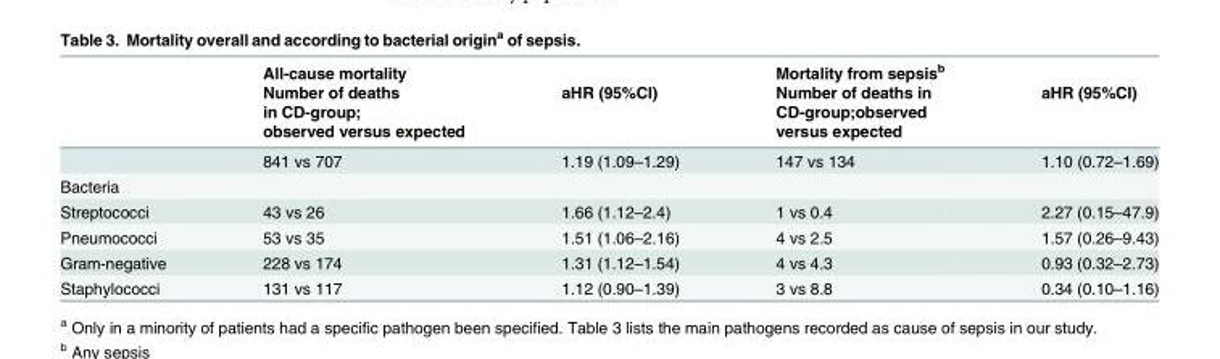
<table><thead><tr><td rowspan="2"></td><td rowspan="2">All-cause mortality Number of deaths in CD-group; observed versus expected</td><td rowspan="2">aHR (95%CI)</td><td rowspan="2">Mortality from sepsis<sup>b</sup> Number of deaths in CD-group;observed versus expected</td><td rowspan="2">aHR (95%CI)</td></tr><tr></tr></thead><tbody><tr><td></td><td>841 vs 707</td><td>1.19 (1.09–1.29)</td><td>147 vs 134</td><td>1.10 (0.72–1.69)</td></tr><tr><td colspan="5">Bacteria</td></tr><tr><td>Streptococci</td><td>43 vs 26</td><td>1.66 (1.12–2.4)</td><td>1 vs 0.4</td><td>2.27 (0.15–47.9)</td></tr><tr><td>Pneumococci</td><td>53 vs 35</td><td>1.51 (1.06–2.16)</td><td>4 vs 2.5</td><td>1.57 (0.26–9.43)</td></tr><tr><td>Gram-negative</td><td>228 vs 174</td><td>1.31 (1.12–1.54)</td><td>4 vs 4.3</td><td>0.93 (0.32–2.73)</td></tr><tr><td>Staphylococci</td><td>131 vs 117</td><td>1.12 (0.90–1.39)</td><td>3 vs 8.8</td><td>0.34 (0.10–1.16)</td></tr></tbody></table>